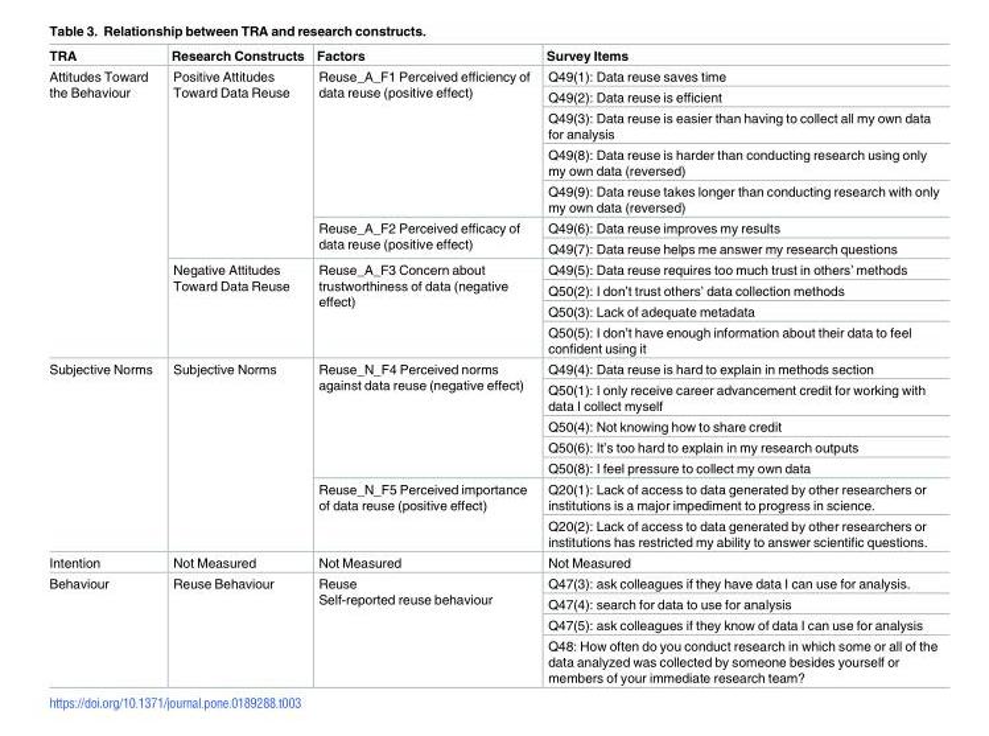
<table><thead><tr><td>TRA</td><td>Research Constructs</td><td>Factors</td><td>Survey Items</td></tr></thead><tbody><tr><td rowspan="11">Attitudes Toward the Behaviour</td><td rowspan="7">Positive Attitudes Toward Data Reuse</td><td rowspan="5">Reuse_A_F1 Perceived efficiency of data reuse (positive effect)</td><td>Q49(1): Data reuse saves time</td></tr><tr><td>Q49(2): Data reuse is efficient</td></tr><tr><td>Q49(3): Data reuse is easier than having to collect all my own data for analysis</td></tr><tr><td>Q49(8): Data reuse is harder than conducting research using only my own data (reversed)</td></tr><tr><td>Q49(9): Data reuse takes longer than conducting research with only my own data (reversed)</td></tr><tr><td rowspan="2">Reuse_A_F2 Perceived efficacy of data reuse (positive effect)</td><td>Q49(6): Data reuse improves my results</td></tr><tr><td>Q49(7): Data reuse helps me answer my research questions</td></tr><tr><td rowspan="4">Negative Attitudes Toward Data Reuse</td><td rowspan="4">Reuse_A_F3 Concern about trustworthiness of data (negative effect)</td><td>Q49(5): Data reuse requires too much trust in others’ methods</td></tr><tr><td>Q50(2): I don’t trust others’ data collection methods</td></tr><tr><td>Q50(3): Lack of adequate metadata</td></tr><tr><td>Q50(5): I don’t have enough information about their data to feel confident using it</td></tr><tr><td rowspan="7">Subjective Norms</td><td rowspan="7">Subjective Norms</td><td rowspan="5">Reuse_N_F4 Perceived norms against data reuse (negative effect)</td><td>Q49(4): Data reuse is hard to explain in methods section</td></tr><tr><td>Q50(1): I only receive career advancement credit for working with data I collect myself</td></tr><tr><td>Q50(4): Not knowing how to share credit</td></tr><tr><td>Q50(6): It’s too hard to explain in my research outputs</td></tr><tr><td>Q50(8): I feel pressure to collect my own data</td></tr><tr><td rowspan="2">Reuse_N_F5 Perceived importance of data reuse (positive effect)</td><td>Q20(1): Lack of access to data generated by other researchers or institutions is a major impediment to progress in science.</td></tr><tr><td>Q20(2): Lack of access to data generated by other researchers or institutions has restricted my ability to answer scientific questions.</td></tr><tr><td>Intention</td><td>Not Measured</td><td>Not Measured</td><td>Not Measured</td></tr><tr><td rowspan="4">Behaviour</td><td rowspan="4">Reuse Behaviour</td><td rowspan="4">Reuse Self-reported reuse behaviour</td><td>Q47(3): ask colleagues if they have data I can use for analysis.</td></tr><tr><td>Q47(4): search for data to use for analysis</td></tr><tr><td>Q47(5): ask colleagues if they know of data I can use for analysis</td></tr><tr><td>Q48: How often do you conduct research in which some or all of the data analyzed was collected by someone besides yourself or members of your immediate research team?</td></tr></tbody></table>